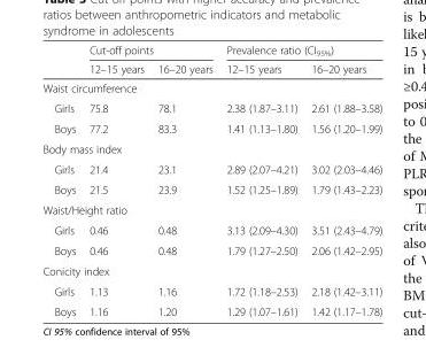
<table><thead><tr><td rowspan="2"></td><td colspan="2">Cut-off points</td><td colspan="2">Prevalence ratio (CI<sub>95%</sub>)</td></tr><tr><td>12–15 years</td><td>16–20 years</td><td>12–15 years</td><td>16–20 years</td></tr></thead><tbody><tr><td colspan="5">Waist circumference</td></tr><tr><td>Girls</td><td>75.8</td><td>78.1</td><td>2.38 (1.87–3.11)</td><td>2.61 (1.88–3.58)</td></tr><tr><td>Boys</td><td>77.2</td><td>83.3</td><td>1.41 (1.13–1.80)</td><td>1.56 (1.20–1.99)</td></tr><tr><td colspan="5">Body mass index</td></tr><tr><td>Girls</td><td>21.4</td><td>23.1</td><td>2.89 (2.07–4.21)</td><td>3.02 (2.03–4.46)</td></tr><tr><td>Boys</td><td>21.5</td><td>23.9</td><td>1.52 (1.25–1.89)</td><td>1.79 (1.43–2.23)</td></tr><tr><td colspan="5">Waist/Height ratio</td></tr><tr><td>Girls</td><td>0.46</td><td>0.48</td><td>3.13 (2.09–4.30)</td><td>3.51 (2.43–4.79)</td></tr><tr><td>Boys</td><td>0.46</td><td>0.48</td><td>1.79 (1.27–2.50)</td><td>2.06 (1.42–2.95)</td></tr><tr><td colspan="5">Conicity index</td></tr><tr><td>Girls</td><td>1.13</td><td>1.16</td><td>1.72 (1.18–2.53)</td><td>2.18 (1.42–3.11)</td></tr><tr><td>Boys</td><td>1.16</td><td>1.20</td><td>1.29 (1.07–1.61)</td><td>1.42 (1.17–1.78)</td></tr></tbody></table>